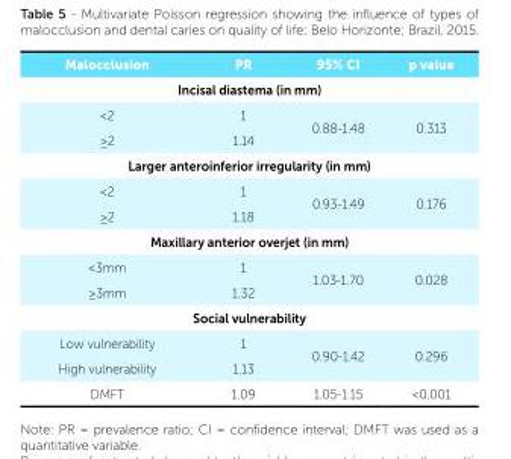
<table><tbody><tr><td>Malocclusion</td><td>PR</td><td>95% CI</td><td>p value</td></tr><tr><td colspan="4">Incisal diastema (in mm)</td></tr><tr><td>&lt;2</td><td>1</td><td rowspan="2">0.88-1.48</td><td rowspan="2">0.313</td></tr><tr><td>≥2</td><td>1.14</td></tr><tr><td colspan="4">Larger anteroinferior irregularity (in mm)</td></tr><tr><td>&lt;2</td><td>1</td><td rowspan="2">0.93-1.49</td><td rowspan="2">0.176</td></tr><tr><td>≥2</td><td>1.18</td></tr><tr><td colspan="4">Maxillary anterior overjet (in mm)</td></tr><tr><td>&lt;3mm</td><td>1</td><td rowspan="2">1.03-1.70</td><td rowspan="2">0.028</td></tr><tr><td>≥3mm</td><td>1.32</td></tr><tr><td colspan="4">Social vulnerability</td></tr><tr><td>Low vulnerability</td><td>1</td><td rowspan="2">0.90-1.42</td><td rowspan="2">0.296</td></tr><tr><td>High vulnerability</td><td>1.13</td></tr><tr><td>DMFT</td><td>1.09</td><td>1.05-1.15</td><td>&lt;0.001</td></tr></tbody></table>